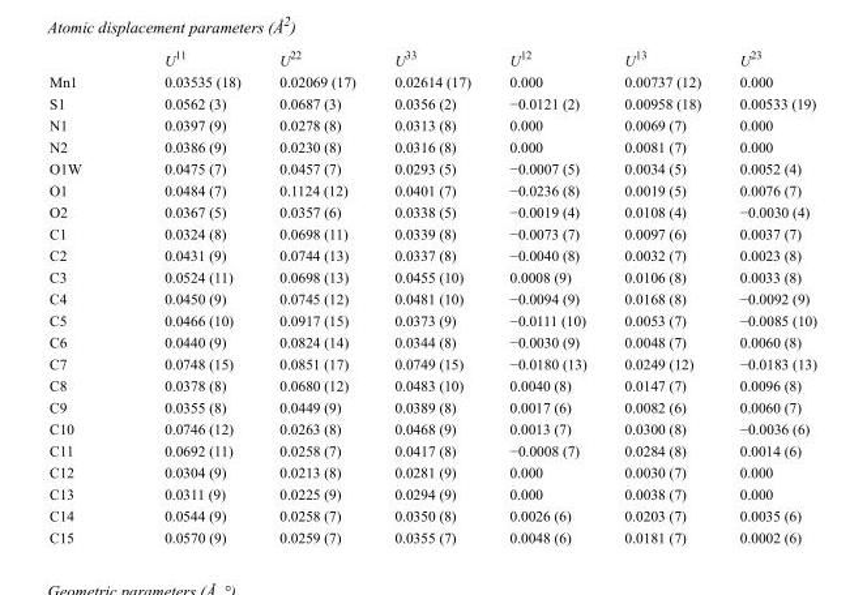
<table><thead><tr><td></td><td>U<sup>11</sup></td><td>U<sup>22</sup></td><td>U<sup>33</sup></td><td>U<sup>12</sup></td><td>U<sup>13</sup></td><td>U<sup>23</sup></td></tr></thead><tbody><tr><td>Mn1</td><td>0.03535 (18)</td><td>0.02069 (17)</td><td>0.02614 (17)</td><td>0.000</td><td>0.00737 (12)</td><td>0.000</td></tr><tr><td>S1</td><td>0.0562 (3)</td><td>0.0687 (3)</td><td>0.0356 (2)</td><td>−0.0121 (2)</td><td>0.00958 (18)</td><td>0.00533 (19)</td></tr><tr><td>N1</td><td>0.0397 (9)</td><td>0.0278 (8)</td><td>0.0313 (8)</td><td>0.000</td><td>0.0069 (7)</td><td>0.000</td></tr><tr><td>N2</td><td>0.0386 (9)</td><td>0.0230 (8)</td><td>0.0316 (8)</td><td>0.000</td><td>0.0081 (7)</td><td>0.000</td></tr><tr><td>O1W</td><td>0.0475 (7)</td><td>0.0457 (7)</td><td>0.0293 (5)</td><td>−0.0007 (5)</td><td>0.0034 (5)</td><td>0.0052 (4)</td></tr><tr><td>O1</td><td>0.0484 (7)</td><td>0.1124 (12)</td><td>0.0401 (7)</td><td>−0.0236 (8)</td><td>0.0019 (5)</td><td>0.0076 (7)</td></tr><tr><td>O2</td><td>0.0367 (5)</td><td>0.0357 (6)</td><td>0.0338 (5)</td><td>−0.0019 (4)</td><td>0.0108 (4)</td><td>−0.0030 (4)</td></tr><tr><td>C1</td><td>0.0324 (8)</td><td>0.0698 (11)</td><td>0.0339 (8)</td><td>−0.0073 (7)</td><td>0.0097 (6)</td><td>0.0037 (7)</td></tr><tr><td>C2</td><td>0.0431 (9)</td><td>0.0744 (13)</td><td>0.0337 (8)</td><td>−0.0040 (8)</td><td>0.0032 (7)</td><td>0.0023 (8)</td></tr><tr><td>C3</td><td>0.0524 (11)</td><td>0.0698 (13)</td><td>0.0455 (10)</td><td>0.0008 (9)</td><td>0.0106 (8)</td><td>0.0033 (8)</td></tr><tr><td>C4</td><td>0.0450 (9)</td><td>0.0745 (12)</td><td>0.0481 (10)</td><td>−0.0094 (9)</td><td>0.0168 (8)</td><td>−0.0092 (9)</td></tr><tr><td>C5</td><td>0.0466 (10)</td><td>0.0917 (15)</td><td>0.0373 (9)</td><td>−0.0111 (10)</td><td>0.0053 (7)</td><td>−0.0085 (10)</td></tr><tr><td>C6</td><td>0.0440 (9)</td><td>0.0824 (14)</td><td>0.0344 (8)</td><td>−0.0030 (9)</td><td>0.0048 (7)</td><td>0.0060 (8)</td></tr><tr><td>C7</td><td>0.0748 (15)</td><td>0.0851 (17)</td><td>0.0749 (15)</td><td>−0.0180 (13)</td><td>0.0249 (12)</td><td>−0.0183 (13)</td></tr><tr><td>C8</td><td>0.0378 (8)</td><td>0.0680 (12)</td><td>0.0483 (10)</td><td>0.0040 (8)</td><td>0.0147 (7)</td><td>0.0096 (8)</td></tr><tr><td>C9</td><td>0.0355 (8)</td><td>0.0449 (9)</td><td>0.0389 (8)</td><td>0.0017 (6)</td><td>0.0082 (6)</td><td>0.0060 (7)</td></tr><tr><td>C10</td><td>0.0746 (12)</td><td>0.0263 (8)</td><td>0.0468 (9)</td><td>0.0013 (7)</td><td>0.0300 (8)</td><td>−0.0036 (6)</td></tr><tr><td>C11</td><td>0.0692 (11)</td><td>0.0258 (7)</td><td>0.0417 (8)</td><td>−0.0008 (7)</td><td>0.0284 (8)</td><td>0.0014 (6)</td></tr><tr><td>C12</td><td>0.0304 (9)</td><td>0.0213 (8)</td><td>0.0281 (9)</td><td>0.000</td><td>0.0030 (7)</td><td>0.000</td></tr><tr><td>C13</td><td>0.0311 (9)</td><td>0.0225 (9)</td><td>0.0294 (9)</td><td>0.000</td><td>0.0038 (7)</td><td>0.000</td></tr><tr><td>C14</td><td>0.0544 (9)</td><td>0.0258 (7)</td><td>0.0350 (8)</td><td>0.0026 (6)</td><td>0.0203 (7)</td><td>0.0035 (6)</td></tr><tr><td>C15</td><td>0.0570 (9)</td><td>0.0259 (7)</td><td>0.0355 (7)</td><td>0.0048 (6)</td><td>0.0181 (7)</td><td>0.0002 (6)</td></tr></tbody></table>